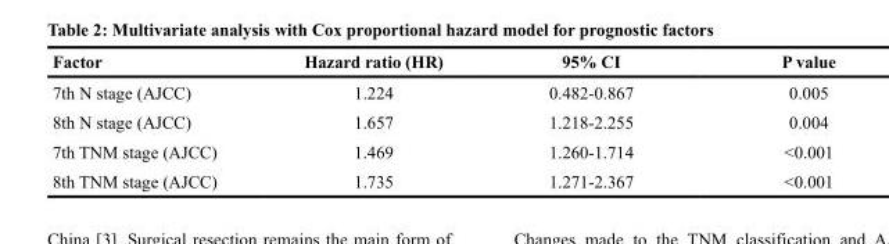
<table><thead><tr><td>Factor</td><td>Hazard ratio (HR)</td><td>95% CI</td><td>P value</td></tr></thead><tbody><tr><td>7th N stage (AJCC)</td><td>1.224</td><td>0.482-0.867</td><td>0.005</td></tr><tr><td>8th N stage (AJCC)</td><td>1.657</td><td>1.218-2.255</td><td>0.004</td></tr><tr><td>7th TNM stage (AJCC)</td><td>1.469</td><td>1.260-1.714</td><td>&lt;0.001</td></tr><tr><td>8th TNM stage (AJCC)</td><td>1.735</td><td>1.271-2.367</td><td>&lt;0.001</td></tr></tbody></table>